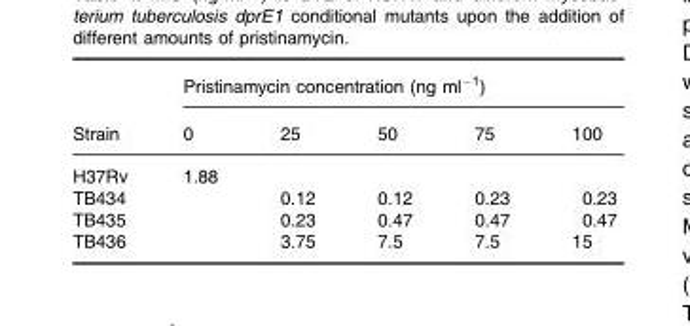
<table><thead><tr><td rowspan="2">Strain</td><td colspan="5">Pristinamycin concentration (ng ml<sup>−1</sup>)</td></tr><tr><td>0</td><td>25</td><td>50</td><td>75</td><td>100</td></tr></thead><tbody><tr><td>H37Rv</td><td>1.88</td><td></td><td></td><td></td><td></td></tr><tr><td>TB434</td><td></td><td>0.12</td><td>0.12</td><td>0.23</td><td>0.23</td></tr><tr><td>TB435</td><td></td><td>0.23</td><td>0.47</td><td>0.47</td><td>0.47</td></tr><tr><td>TB436</td><td></td><td>3.75</td><td>7.5</td><td>7.5</td><td>15</td></tr></tbody></table>